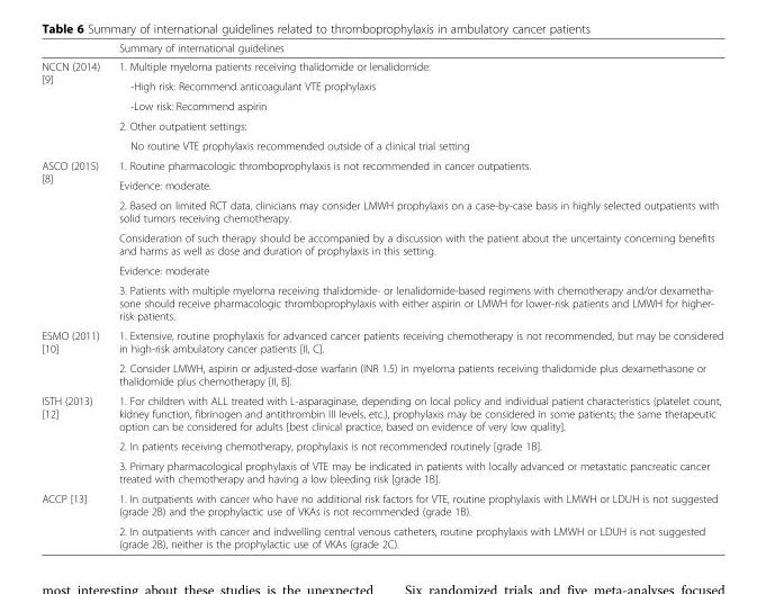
<table><thead><tr><td></td><td>Summary of international guidelines</td></tr></thead><tbody><tr><td rowspan="5">NCCN (2014) [9]</td><td>1. Multiple myeloma patients receiving thalidomide or lenalidomide:</td></tr><tr><td>-High risk: Recommend anticoagulant VTE prophylaxis</td></tr><tr><td>-Low risk: Recommend aspirin</td></tr><tr><td>2. Other outpatient settings:</td></tr><tr><td>No routine VTE prophylaxis recommended outside of a clinical trial setting</td></tr><tr><td rowspan="6">ASCO (2015) [8]</td><td>1. Routine pharmacologic thromboprophylaxis is not recommended in cancer outpatients.</td></tr><tr><td>Evidence: moderate.</td></tr><tr><td>2. Based on limited RCT data, clinicians may consider LMWH prophylaxis on a case-by-case basis in highly selected outpatients with solid tumors receiving chemotherapy.</td></tr><tr><td>Consideration of such therapy should be accompanied by a discussion with the patient about the uncertainty concerning benefits and harms as well as dose and duration of prophylaxis in this setting.</td></tr><tr><td>Evidence: moderate</td></tr><tr><td>3. Patients with multiple myeloma receiving thalidomide- or lenalidomide-based regimens with chemotherapy and/or dexametha- sone should receive pharmacologic thromboprophylaxis with either aspirin or LMWH for lower-risk patients and LMWH for higher- risk patients.</td></tr><tr><td rowspan="2">ESMO (2011) [10]</td><td>1. Extensive, routine prophylaxis for advanced cancer patients receiving chemotherapy is not recommended, but may be considered in high-risk ambulatory cancer patients [II, C].</td></tr><tr><td>2. Consider LMWH, aspirin or adjusted-dose warfarin (INR 1.5) in myeloma patients receiving thalidomide plus dexamethasone or thalidomide plus chemotherapy [II, B].</td></tr><tr><td rowspan="3">ISTH (2013) [12]</td><td>1. For children with ALL treated with L-asparaginase, depending on local policy and individual patient characteristics (platelet count, kidney function, fibrinogen and antithrombin III levels, etc.), prophylaxis may be considered in some patients; the same therapeutic option can be considered for adults [best clinical practice, based on evidence of very low quality].</td></tr><tr><td>2. In patients receiving chemotherapy, prophylaxis is not recommended routinely [grade 1B].</td></tr><tr><td>3. Primary pharmacological prophylaxis of VTE may be indicated in patients with locally advanced or metastatic pancreatic cancer treated with chemotherapy and having a low bleeding risk [grade 1B].</td></tr><tr><td rowspan="2">ACCP [13]</td><td>1. In outpatients with cancer who have no additional risk factors for VTE, routine prophylaxis with LMWH or LDUH is not suggested (grade 2B) and the prophylactic use of VKAs is not recommended (grade 1B).</td></tr><tr><td>2. In outpatients with cancer and indwelling central venous catheters, routine prophylaxis with LMWH or LDUH is not suggested (grade 2B), neither is the prophylactic use of VKAs (grade 2C).</td></tr></tbody></table>